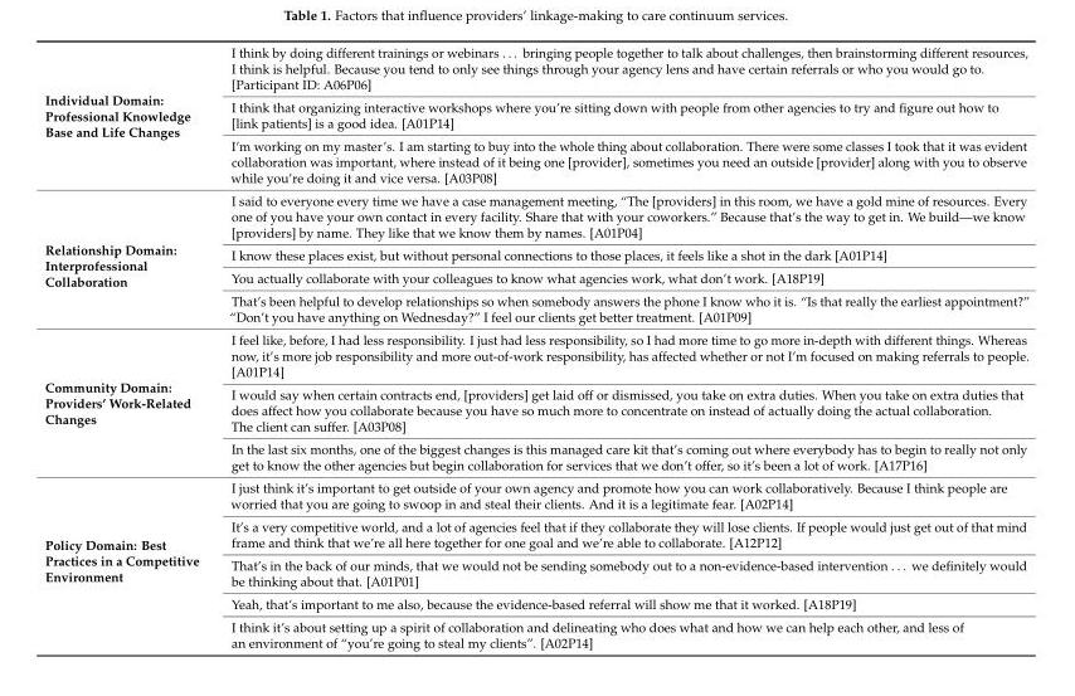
<table><tbody><tr><td rowspan="3">Individual Domain: Professional Knowledge Base and Life Changes</td><td>I think by doing different trainings or webinars . . . bringing people together to talk about challenges, then brainstorming different resources, I think is helpful. Because you tend to only see things through your agency lens and have certain referrals or who you would go to. [Participant ID: A06P06]</td></tr><tr><td>I think that organizing interactive workshops where you’re sitting down with people from other agencies to try and figure out how to [link patients] is a good idea. [A01P14]</td></tr><tr><td>I’m working on my master’s. I am starting to buy into the whole thing about collaboration. There were some classes I took that it was evident collaboration was important, where instead of it being one [provider], sometimes you need an outside [provider] along with you to observe while you’re doing it and vice versa. [A03P08]</td></tr><tr><td rowspan="4">Relationship Domain: Interprofessional Collaboration</td><td>I said to everyone every time we have a case management meeting, “The [providers] in this room, we have a gold mine of resources. Every one of you have your own contact in every facility. Share that with your coworkers.” Because that’s the way to get in. We build—we know [providers] by name. They like that we know them by names. [A01P04]</td></tr><tr><td>I know these places exist, but without personal connections to those places, it feels like a shot in the dark [A01P14]</td></tr><tr><td>You actually collaborate with your colleagues to know what agencies work, what don’t work. [A18P19]</td></tr><tr><td>That’s been helpful to develop relationships so when somebody answers the phone I know who it is. “Is that really the earliest appointment?” “Don’t you have anything on Wednesday?” I feel our clients get better treatment. [A01P09]</td></tr><tr><td rowspan="3">Community Domain: Providers’ Work-Related Changes</td><td>I feel like, before, I had less responsibility. I just had less responsibility, so I had more time to go more in-depth with different things. Whereas now, it’s more job responsibility and more out-of-work responsibility, has affected whether or not I’m focused on making referrals to people. [A01P14]</td></tr><tr><td>I would say when certain contracts end, [providers] get laid off or dismissed, you take on extra duties. When you take on extra duties that does affect how you collaborate because you have so much more to concentrate on instead of actually doing the actual collaboration. The client can suffer. [A03P08]</td></tr><tr><td>In the last six months, one of the biggest changes is this managed care kit that’s coming out where everybody has to begin to really not only get to know the other agencies but begin collaboration for services that we don’t offer, so it’s been a lot of work. [A17P16]</td></tr><tr><td rowspan="5">Policy Domain: Best Practices in a Competitive Environment</td><td>I just think it’s important to get outside of your own agency and promote how you can work collaboratively. Because I think people are worried that you are going to swoop in and steal their clients. And it is a legitimate fear. [A02P14]</td></tr><tr><td>It’s a very competitive world, and a lot of agencies feel that if they collaborate they will lose clients. If people would just get out of that mind frame and think that we’re all here together for one goal and we’re able to collaborate. [A12P12]</td></tr><tr><td>That’s in the back of our minds, that we would not be sending somebody out to a non-evidence-based intervention . . . we definitely would be thinking about that. [A01P01]</td></tr><tr><td>Yeah, that’s important to me also, because the evidence-based referral will show me that it worked. [A18P19]</td></tr><tr><td>I think it’s about setting up a spirit of collaboration and delineating who does what and how we can help each other, and less of an environment of “you’re going to steal my clients”. [A02P14]</td></tr></tbody></table>